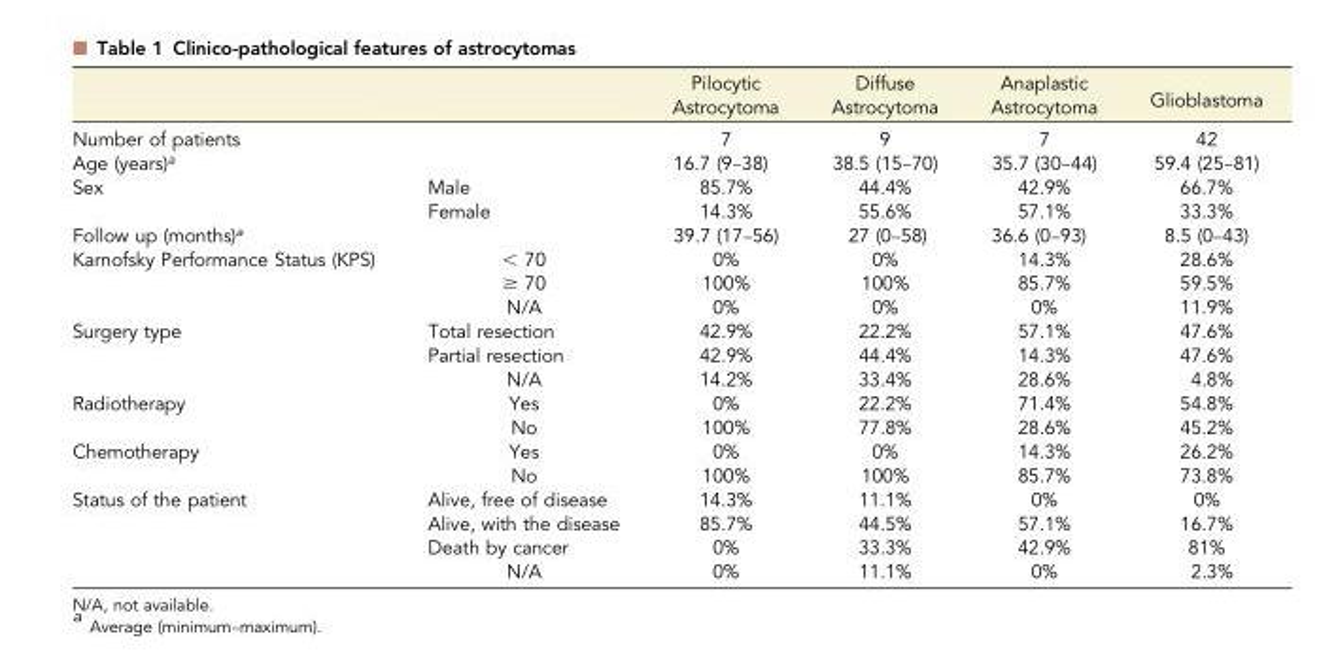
<table><thead><tr><td></td><td></td><td>Pilocytic Astrocytoma</td><td>Diffuse Astrocytoma</td><td>Anaplastic Astrocytoma</td><td>Glioblastoma</td></tr></thead><tbody><tr><td>Number of patients</td><td></td><td>7</td><td>9</td><td>7</td><td>42</td></tr><tr><td>Age (years)<sup>a</sup></td><td></td><td>16.7 (9–38)</td><td>38.5 (15–70)</td><td>35.7 (30–44)</td><td>59.4 (25–81)</td></tr><tr><td rowspan="2">Sex</td><td>Male</td><td>85.7%</td><td>44.4%</td><td>42.9%</td><td>66.7%</td></tr><tr><td>Female</td><td>14.3%</td><td>55.6%</td><td>57.1%</td><td>33.3%</td></tr><tr><td>Follow up (months)<sup>a</sup></td><td></td><td>39.7 (17–56)</td><td>27 (0–58)</td><td>36.6 (0–93)</td><td>8.5 (0–43)</td></tr><tr><td rowspan="3">Karnofsky Performance Status (KPS)</td><td>&lt; 70</td><td>0%</td><td>0%</td><td>14.3%</td><td>28.6%</td></tr><tr><td>≥ 70</td><td>100%</td><td>100%</td><td>85.7%</td><td>59.5%</td></tr><tr><td>N/A</td><td>0%</td><td>0%</td><td>0%</td><td>11.9%</td></tr><tr><td rowspan="3">Surgery type</td><td>Total resection</td><td>42.9%</td><td>22.2%</td><td>57.1%</td><td>47.6%</td></tr><tr><td>Partial resection</td><td>42.9%</td><td>44.4%</td><td>14.3%</td><td>47.6%</td></tr><tr><td>N/A</td><td>14.2%</td><td>33.4%</td><td>28.6%</td><td>4.8%</td></tr><tr><td rowspan="2">Radiotherapy</td><td>Yes</td><td>0%</td><td>22.2%</td><td>71.4%</td><td>54.8%</td></tr><tr><td>No</td><td>100%</td><td>77.8%</td><td>28.6%</td><td>45.2%</td></tr><tr><td rowspan="2">Chemotherapy</td><td>Yes</td><td>0%</td><td>0%</td><td>14.3%</td><td>26.2%</td></tr><tr><td>No</td><td>100%</td><td>100%</td><td>85.7%</td><td>73.8%</td></tr><tr><td rowspan="4">Status of the patient</td><td>Alive, free of disease</td><td>14.3%</td><td>11.1%</td><td>0%</td><td>0%</td></tr><tr><td>Alive, with the disease</td><td>85.7%</td><td>44.5%</td><td>57.1%</td><td>16.7%</td></tr><tr><td>Death by cancer</td><td>0%</td><td>33.3%</td><td>42.9%</td><td>81%</td></tr><tr><td>N/A</td><td>0%</td><td>11.1%</td><td>0%</td><td>2.3%</td></tr></tbody></table>